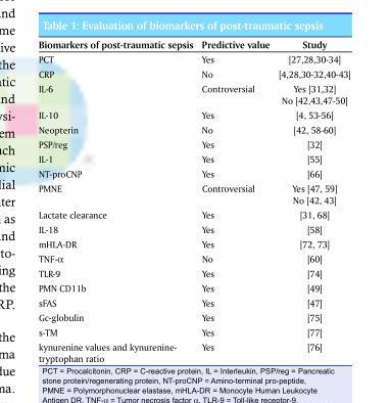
<table><thead><tr><td>Biomarkers of post-traumatic sepsis</td><td>Predictive value</td><td>Study</td></tr></thead><tbody><tr><td>PCT</td><td>Yes</td><td>[27,28,30-34]</td></tr><tr><td>CRP</td><td>No</td><td>[4,28,30-32,40-43]</td></tr><tr><td rowspan="2">IL-6</td><td>Controversial</td><td>Yes [31,32]</td></tr><tr><td></td><td>No [42,43,47-50]</td></tr><tr><td>IL-10</td><td>Yes</td><td>[4, 53-56]</td></tr><tr><td>Neopterin</td><td>No</td><td>[42, 58-60]</td></tr><tr><td>PSP/reg</td><td>Yes</td><td>[32]</td></tr><tr><td>IL-1</td><td>Yes</td><td>[55]</td></tr><tr><td>NT-proCNP</td><td>Yes</td><td>[66]</td></tr><tr><td rowspan="2">PMNE</td><td>Controversial</td><td>Yes [47, 59]</td></tr><tr><td></td><td>No [42, 43]</td></tr><tr><td>Lactate clearance</td><td>Yes</td><td>[31, 68]</td></tr><tr><td>IL-18</td><td>Yes</td><td>[58]</td></tr><tr><td>mHLA-DR</td><td>Yes</td><td>[72, 73]</td></tr><tr><td>TNF-α</td><td>No</td><td>[60]</td></tr><tr><td>TLR-9</td><td>Yes</td><td>[74]</td></tr><tr><td>PMN CD11b</td><td>Yes</td><td>[49]</td></tr><tr><td>sFAS</td><td>Yes</td><td>[47]</td></tr><tr><td>Gc-globulin</td><td>Yes</td><td>[75]</td></tr><tr><td>s-TM</td><td>Yes</td><td>[77]</td></tr><tr><td>kynurenine values and kynurenine- tryptophan ratio</td><td>Yes</td><td>[76]</td></tr></tbody></table>